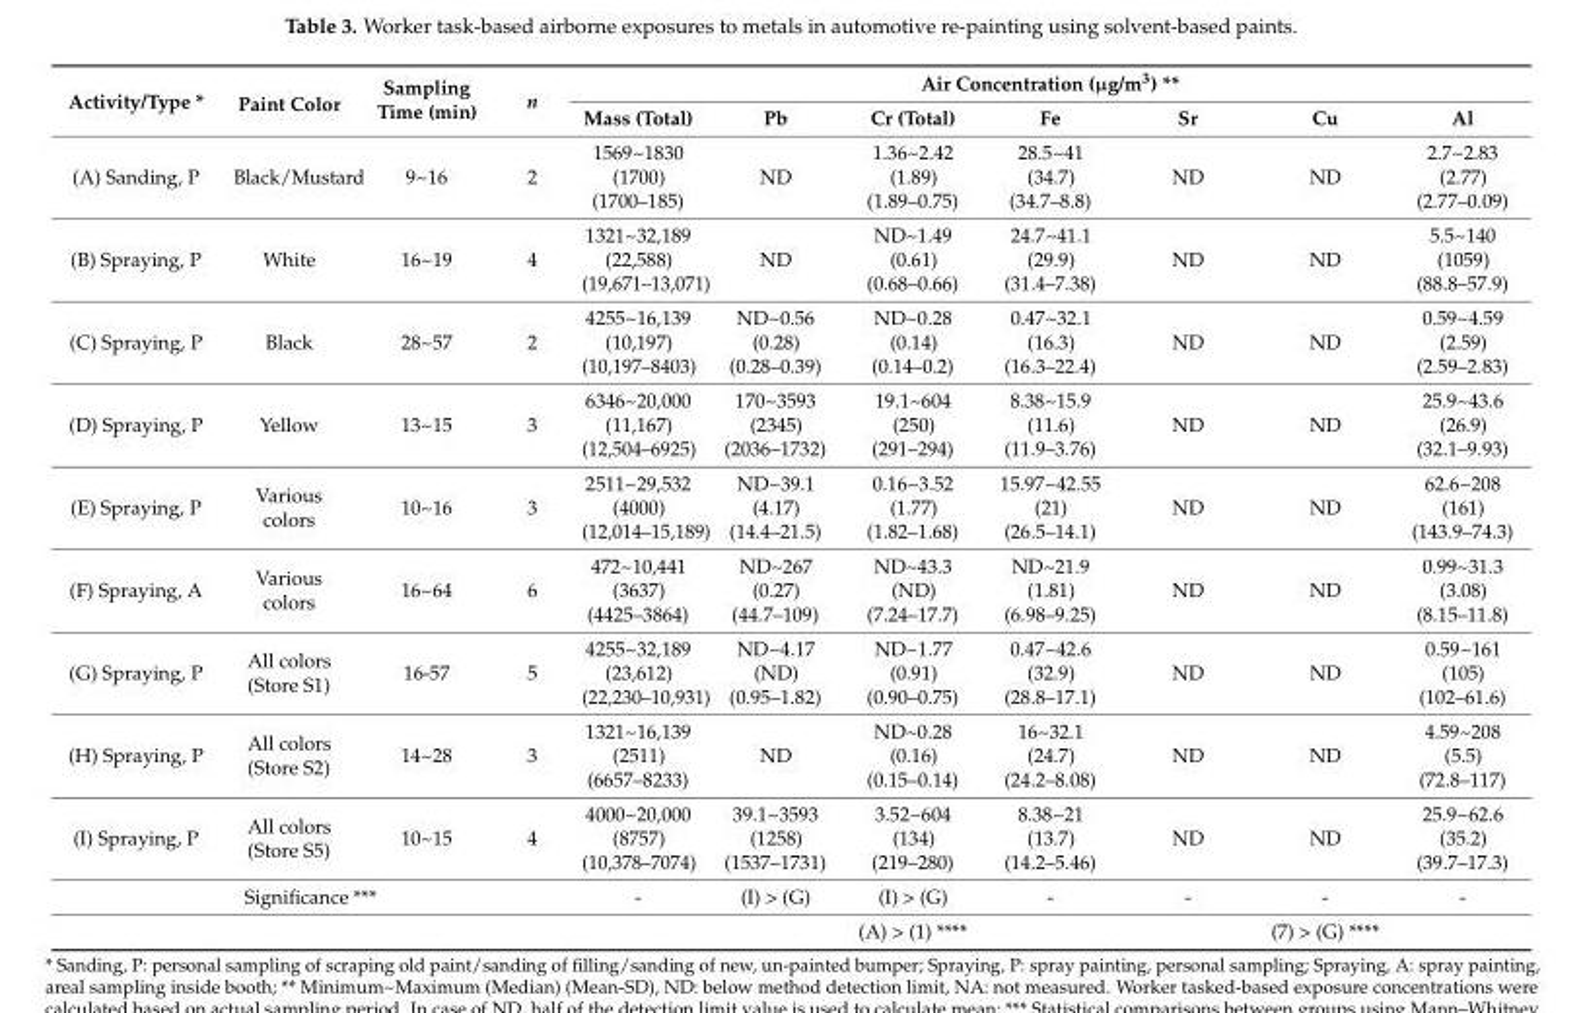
<table><thead><tr><td rowspan="2">Activity/Type *</td><td rowspan="2">Paint Color</td><td rowspan="2">Sampling Time (min)</td><td rowspan="2">n</td><td colspan="7">Air Concentration (µg/m<sup>3</sup>) **</td></tr><tr><td>Mass (Total)</td><td>Pb</td><td>Cr (Total)</td><td>Fe</td><td>Sr</td><td>Cu</td><td>Al</td></tr></thead><tbody><tr><td>(A) Sanding, P</td><td>Black/Mustard</td><td>9~16</td><td>2</td><td>1569~1830 (1700) (1700–185)</td><td>ND</td><td>1.36~2.42 (1.89) (1.89–0.75)</td><td>28.5~41 (34.7) (34.7–8.8)</td><td>ND</td><td>ND</td><td>2.7~2.83 (2.77) (2.77–0.09)</td></tr><tr><td>(B) Spraying, P</td><td>White</td><td>16~19</td><td>4</td><td>1321~32,189 (22,588) (19,671–13,071)</td><td>ND</td><td>ND~1.49 (0.61) (0.68–0.66)</td><td>24.7~41.1 (29.9) (31.4–7.38)</td><td>ND</td><td>ND</td><td>5.5~140 (1059) (88.8–57.9)</td></tr><tr><td>(C) Spraying, P</td><td>Black</td><td>28~57</td><td>2</td><td>4255~16,139 (10,197) (10,197–8403)</td><td>ND~0.56 (0.28) (0.28–0.39)</td><td>ND~0.28 (0.14) (0.14–0.2)</td><td>0.47~32.1 (16.3) (16.3–22.4)</td><td>ND</td><td>ND</td><td>0.59~4.59 (2.59) (2.59–2.83)</td></tr><tr><td>(D) Spraying, P</td><td>Yellow</td><td>13~15</td><td>3</td><td>6346~20,000 (11,167) (12,504–6925)</td><td>170~3593 (2345) (2036–1732)</td><td>19.1~604 (250) (291–294)</td><td>8.38~15.9 (11.6) (11.9–3.76)</td><td>ND</td><td>ND</td><td>25.9~43.6 (26.9) (32.1–9.93)</td></tr><tr><td>(E) Spraying, P</td><td>Various colors</td><td>10~16</td><td>3</td><td>2511~29,532 (4000) (12,014–15,189)</td><td>ND~39.1 (4.17) (14.4–21.5)</td><td>0.16~3.52 (1.77) (1.82–1.68)</td><td>15.97~42.55 (21) (26.5–14.1)</td><td>ND</td><td>ND</td><td>62.6~208 (161) (143.9–74.3)</td></tr><tr><td>(F) Spraying, A</td><td>Various colors</td><td>16~64</td><td>6</td><td>472~10,441 (3637) (4425–3864)</td><td>ND~267 (0.27) (44.7–109)</td><td>ND~43.3 (ND) (7.24–17.7)</td><td>ND~21.9 (1.81) (6.98–9.25)</td><td>ND</td><td>ND</td><td>0.99~31.3 (3.08) (8.15–11.8)</td></tr><tr><td>(G) Spraying, P</td><td>All colors (Store S1)</td><td>16-57</td><td>5</td><td>4255~32,189 (23,612) (22,230–10,931)</td><td>ND~4.17 (ND) (0.95–1.82)</td><td>ND~1.77 (0.91) (0.90–0.75)</td><td>0.47~42.6 (32.9) (28.8–17.1)</td><td>ND</td><td>ND</td><td>0.59~161 (105) (102–61.6)</td></tr><tr><td>(H) Spraying, P</td><td>All colors (Store S2)</td><td>14~28</td><td>3</td><td>1321~16,139 (2511) (6657–8233)</td><td>ND</td><td>ND~0.28 (0.16) (0.15–0.14)</td><td>16~32.1 (24.7) (24.2–8.08)</td><td>ND</td><td>ND</td><td>4.59~208 (5.5) (72.8–117)</td></tr><tr><td>(I) Spraying, P</td><td>All colors (Store S5)</td><td>10~15</td><td>4</td><td>4000~20,000 (8757) (10,378–7074)</td><td>39.1~3593 (1258) (1537–1731)</td><td>3.52~604 (134) (219–280)</td><td>8.38~21 (13.7) (14.2–5.46)</td><td>ND</td><td>ND</td><td>25.9~62.6 (35.2) (39.7–17.3)</td></tr><tr><td colspan="4">Significance ***</td><td>-</td><td>(I) &gt; (G)</td><td>(I) &gt; (G)</td><td>-</td><td>-</td><td>-</td><td>-</td></tr><tr><td></td><td></td><td></td><td></td><td></td><td></td><td>(A) &gt; (1) ****</td><td></td><td></td><td>(7) &gt; (G) ****</td><td></td></tr></tbody></table>